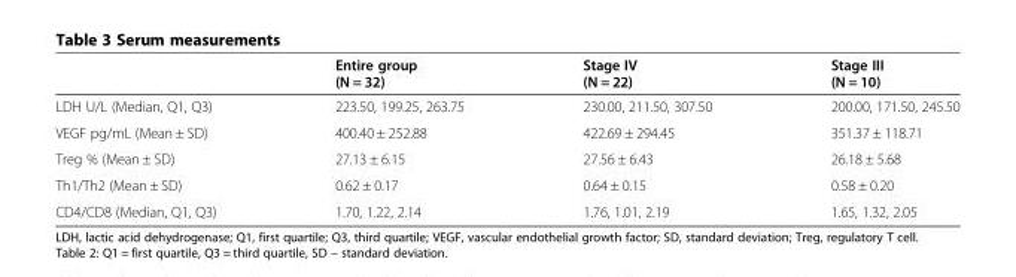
<table><thead><tr><td></td><td>Entire group (N = 32)</td><td>Stage IV (N = 22)</td><td>Stage III (N = 10)</td></tr></thead><tbody><tr><td>LDH U/L (Median, Q1, Q3)</td><td>223.50, 199.25, 263.75</td><td>230.00, 211.50, 307.50</td><td>200.00, 171.50, 245.50</td></tr><tr><td>VEGF pg/mL (Mean ± SD)</td><td>400.40 ± 252.88</td><td>422.69 ± 294.45</td><td>351.37 ± 118.71</td></tr><tr><td>Treg % (Mean ± SD)</td><td>27.13 ± 6.15</td><td>27.56 ± 6.43</td><td>26.18 ± 5.68</td></tr><tr><td>Th1/Th2 (Mean ± SD)</td><td>0.62 ± 0.17</td><td>0.64 ± 0.15</td><td>0.58 ± 0.20</td></tr><tr><td>CD4/CD8 (Median, Q1, Q3)</td><td>1.70, 1.22, 2.14</td><td>1.76, 1.01, 2.19</td><td>1.65, 1.32, 2.05</td></tr></tbody></table>